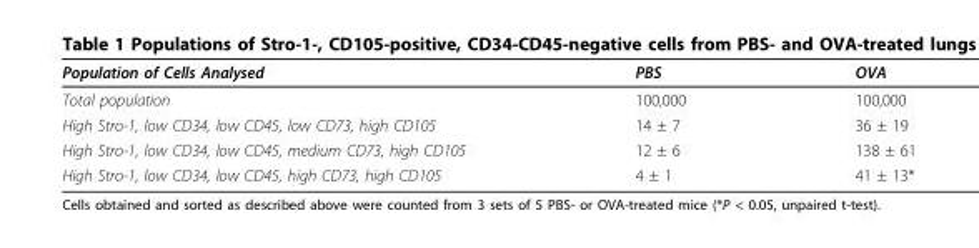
<table><thead><tr><td>Population of Cells Analysed</td><td>PBS</td><td>OVA</td></tr></thead><tbody><tr><td>Total population</td><td>100,000</td><td>100,000</td></tr><tr><td>High Stro-1, low CD34, low CD45, low CD73, high CD105</td><td>14 ± 7</td><td>36 ± 19</td></tr><tr><td>High Stro-1, low CD34, low CD45, medium CD73, high CD105</td><td>12 ± 6</td><td>138 ± 61</td></tr><tr><td>High Stro-1, low CD34, low CD45, high CD73, high CD105</td><td>4 ± 1</td><td>41 ± 13*</td></tr></tbody></table>